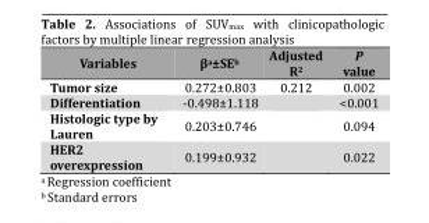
<table><thead><tr><td>Variables</td><td>β<sup>a</sup>±SE<sup>b</sup></td><td>Adjusted R<sup>2</sup></td><td>P value</td></tr></thead><tbody><tr><td>Tumor size</td><td>0.272±0.803</td><td>0.212</td><td>0.002</td></tr><tr><td>Differentiation</td><td>-0.498±1.118</td><td></td><td>&lt;0.001</td></tr><tr><td>Histologic type by Lauren</td><td>0.203±0.746</td><td></td><td>0.094</td></tr><tr><td>HER2 overexpression</td><td>0.199±0.932</td><td></td><td>0.022</td></tr></tbody></table>